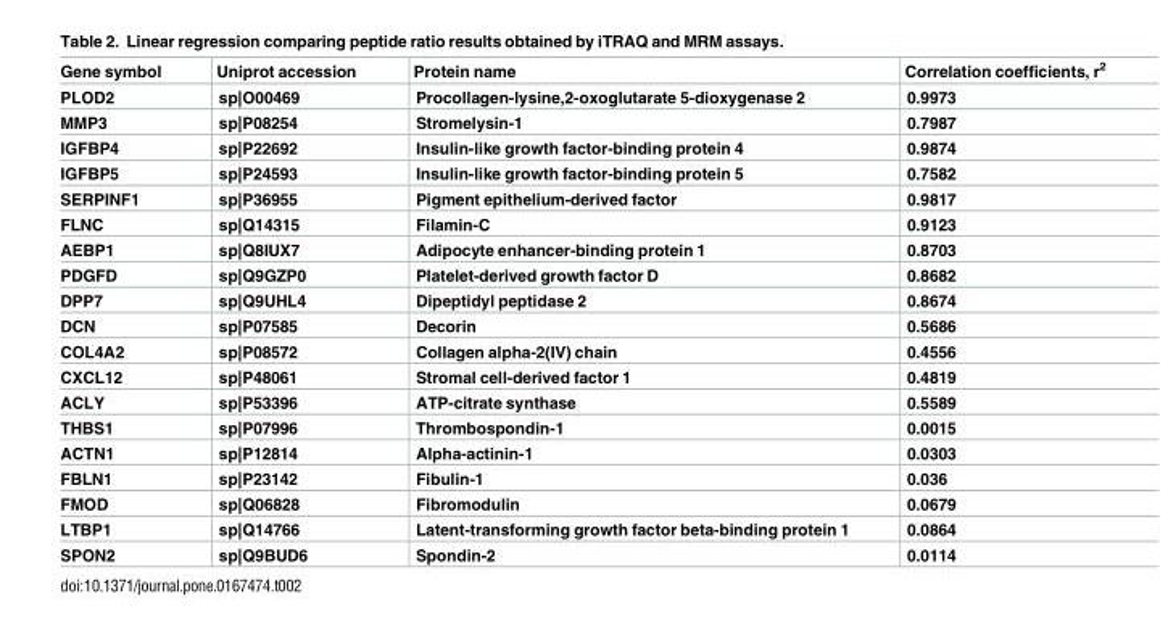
<table><thead><tr><td>Gene symbol</td><td>Uniprot accession</td><td>Protein name</td><td>Correlation coefficients, r<sup>2</sup></td></tr></thead><tbody><tr><td>PLOD2</td><td>sp|O00469</td><td>Procollagen-lysine,2-oxoglutarate 5-dioxygenase 2</td><td>0.9973</td></tr><tr><td>MMP3</td><td>sp|P08254</td><td>Stromelysin-1</td><td>0.7987</td></tr><tr><td>IGFBP4</td><td>sp|P22692</td><td>Insulin-like growth factor-binding protein 4</td><td>0.9874</td></tr><tr><td>IGFBP5</td><td>sp|P24593</td><td>Insulin-like growth factor-binding protein 5</td><td>0.7582</td></tr><tr><td>SERPINF1</td><td>sp|P36955</td><td>Pigment epithelium-derived factor</td><td>0.9817</td></tr><tr><td>FLNC</td><td>sp|Q14315</td><td>Filamin-C</td><td>0.9123</td></tr><tr><td>AEBP1</td><td>sp|Q8IUX7</td><td>Adipocyte enhancer-binding protein 1</td><td>0.8703</td></tr><tr><td>PDGFD</td><td>sp|Q9GZP0</td><td>Platelet-derived growth factor D</td><td>0.8682</td></tr><tr><td>DPP7</td><td>sp|Q9UHL4</td><td>Dipeptidyl peptidase 2</td><td>0.8674</td></tr><tr><td>DCN</td><td>sp|P07585</td><td>Decorin</td><td>0.5686</td></tr><tr><td>COL4A2</td><td>sp|P08572</td><td>Collagen alpha-2(IV) chain</td><td>0.4556</td></tr><tr><td>CXCL12</td><td>sp|P48061</td><td>Stromal cell-derived factor 1</td><td>0.4819</td></tr><tr><td>ACLY</td><td>sp|P53396</td><td>ATP-citrate synthase</td><td>0.5589</td></tr><tr><td>THBS1</td><td>sp|P07996</td><td>Thrombospondin-1</td><td>0.0015</td></tr><tr><td>ACTN1</td><td>sp|P12814</td><td>Alpha-actinin-1</td><td>0.0303</td></tr><tr><td>FBLN1</td><td>sp|P23142</td><td>Fibulin-1</td><td>0.036</td></tr><tr><td>FMOD</td><td>sp|Q06828</td><td>Fibromodulin</td><td>0.0679</td></tr><tr><td>LTBP1</td><td>sp|Q14766</td><td>Latent-transforming growth factor beta-binding protein 1</td><td>0.0864</td></tr><tr><td>SPON2</td><td>sp|Q9BUD6</td><td>Spondin-2</td><td>0.0114</td></tr></tbody></table>